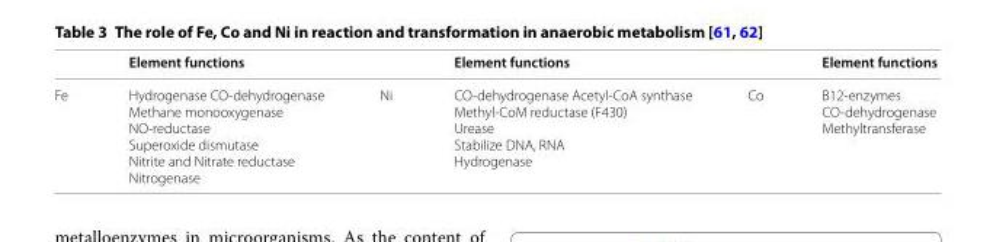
<table><thead><tr><td></td><td>Element functions</td><td></td><td>Element functions</td><td></td><td>Element functions</td></tr></thead><tbody><tr><td>Fe</td><td>Hydrogenase CO-dehydrogenase Methane monooxygenase NO-reductase Superoxide dismutase Nitrite and Nitrate reductase Nitrogenase</td><td>Ni</td><td>CO-dehydrogenase Acetyl-CoA synthase Methyl-CoM reductase (F430) Urease Stabilize DNA, RNA Hydrogenase</td><td>Co</td><td>B12-enzymes CO-dehydrogenase Methyltransferase</td></tr></tbody></table>